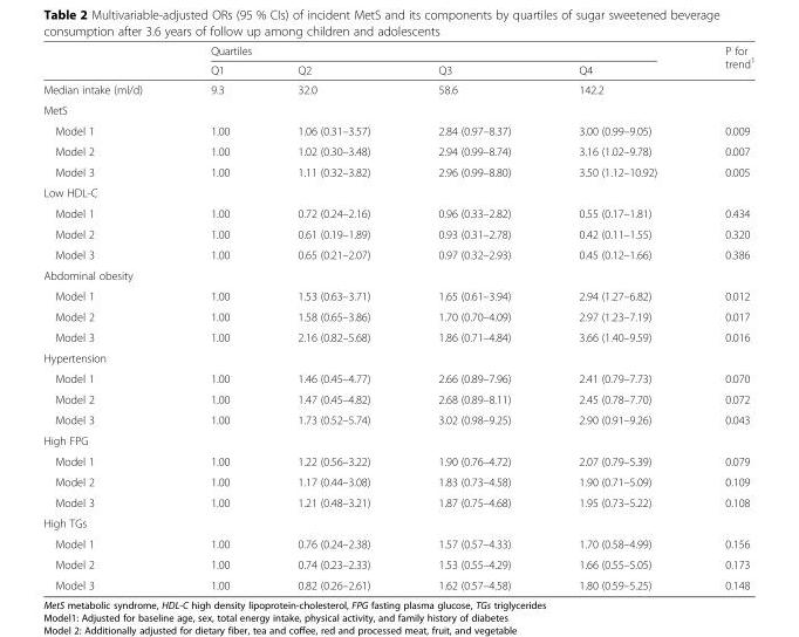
<table><thead><tr><td rowspan="2"></td><td colspan="4">Quartiles</td><td rowspan="2">P for trend<sup>1</sup></td></tr><tr><td>Q1</td><td>Q2</td><td>Q3</td><td>Q4</td></tr></thead><tbody><tr><td>Median intake (ml/d)</td><td>9.3</td><td>32.0</td><td>58.6</td><td>142.2</td><td></td></tr><tr><td colspan="6">MetS</td></tr><tr><td>Model 1</td><td>1.00</td><td>1.06 (0.31–3.57)</td><td>2.84 (0.97–8.37)</td><td>3.00 (0.99–9.05)</td><td>0.009</td></tr><tr><td>Model 2</td><td>1.00</td><td>1.02 (0.30–3.48)</td><td>2.94 (0.99–8.74)</td><td>3.16 (1.02–9.78)</td><td>0.007</td></tr><tr><td>Model 3</td><td>1.00</td><td>1.11 (0.32–3.82)</td><td>2.96 (0.99–8.80)</td><td>3.50 (1.12–10.92)</td><td>0.005</td></tr><tr><td colspan="6">Low HDL-C</td></tr><tr><td>Model 1</td><td>1.00</td><td>0.72 (0.24–2.16)</td><td>0.96 (0.33–2.82)</td><td>0.55 (0.17–1.81)</td><td>0.434</td></tr><tr><td>Model 2</td><td>1.00</td><td>0.61 (0.19–1.89)</td><td>0.93 (0.31–2.78)</td><td>0.42 (0.11–1.55)</td><td>0.320</td></tr><tr><td>Model 3</td><td>1.00</td><td>0.65 (0.21–2.07)</td><td>0.97 (0.32–2.93)</td><td>0.45 (0.12–1.66)</td><td>0.386</td></tr><tr><td colspan="6">Abdominal obesity</td></tr><tr><td>Model 1</td><td>1.00</td><td>1.53 (0.63–3.71)</td><td>1.65 (0.61–3.94)</td><td>2.94 (1.27–6.82)</td><td>0.012</td></tr><tr><td>Model 2</td><td>1.00</td><td>1.58 (0.65–3.86)</td><td>1.70 (0.70–4.09)</td><td>2.97 (1.23–7.19)</td><td>0.017</td></tr><tr><td>Model 3</td><td>1.00</td><td>2.16 (0.82–5.68)</td><td>1.86 (0.71–4.84)</td><td>3.66 (1.40–9.59)</td><td>0.016</td></tr><tr><td colspan="6">Hypertension</td></tr><tr><td>Model 1</td><td>1.00</td><td>1.46 (0.45–4.77)</td><td>2.66 (0.89–7.96)</td><td>2.41 (0.79–7.73)</td><td>0.070</td></tr><tr><td>Model 2</td><td>1.00</td><td>1.47 (0.45–4.82)</td><td>2.68 (0.89–8.11)</td><td>2.45 (0.78–7.70)</td><td>0.072</td></tr><tr><td>Model 3</td><td>1.00</td><td>1.73 (0.52–5.74)</td><td>3.02 (0.98–9.25)</td><td>2.90 (0.91–9.26)</td><td>0.043</td></tr><tr><td colspan="6">High FPG</td></tr><tr><td>Model 1</td><td>1.00</td><td>1.22 (0.56–3.22)</td><td>1.90 (0.76–4.72)</td><td>2.07 (0.79–5.39)</td><td>0.079</td></tr><tr><td>Model 2</td><td>1.00</td><td>1.17 (0.44–3.08)</td><td>1.83 (0.73–4.58)</td><td>1.90 (0.71–5.09)</td><td>0.109</td></tr><tr><td>Model 3</td><td>1.00</td><td>1.21 (0.48–3.21)</td><td>1.87 (0.75–4.68)</td><td>1.95 (0.73–5.22)</td><td>0.108</td></tr><tr><td colspan="6">High TGs</td></tr><tr><td>Model 1</td><td>1.00</td><td>0.76 (0.24–2.38)</td><td>1.57 (0.57–4.33)</td><td>1.70 (0.58–4.99)</td><td>0.156</td></tr><tr><td>Model 2</td><td>1.00</td><td>0.74 (0.23–2.33)</td><td>1.53 (0.55–4.29)</td><td>1.66 (0.55–5.05)</td><td>0.173</td></tr><tr><td>Model 3</td><td>1.00</td><td>0.82 (0.26–2.61)</td><td>1.62 (0.57–4.58)</td><td>1.80 (0.59–5.25)</td><td>0.148</td></tr></tbody></table>